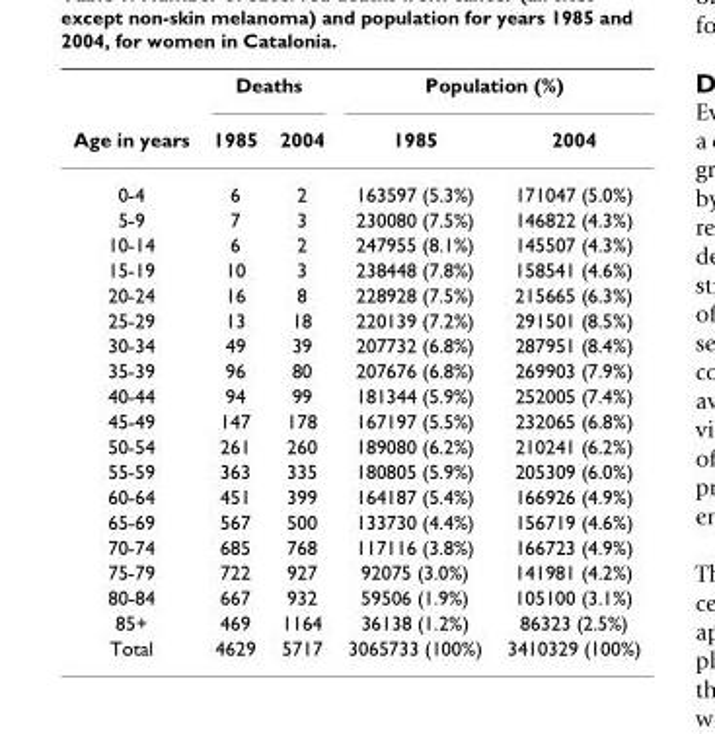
<table><thead><tr><td rowspan="2">Age in years</td><td colspan="2">Deaths</td><td colspan="2">Population (%)</td></tr><tr><td>1985</td><td>2004</td><td>1985</td><td>2004</td></tr></thead><tbody><tr><td>0-4</td><td>6</td><td>2</td><td>163597 (5.3%)</td><td>171047 (5.0%)</td></tr><tr><td>5-9</td><td>7</td><td>3</td><td>230080 (7.5%)</td><td>146822 (4.3%)</td></tr><tr><td>10-14</td><td>6</td><td>2</td><td>247955 (8.1%)</td><td>145507 (4.3%)</td></tr><tr><td>15-19</td><td>10</td><td>3</td><td>238448 (7.8%)</td><td>158541 (4.6%)</td></tr><tr><td>20-24</td><td>16</td><td>8</td><td>228928 (7.5%)</td><td>215665 (6.3%)</td></tr><tr><td>25-29</td><td>13</td><td>18</td><td>220139 (7.2%)</td><td>291501 (8.5%)</td></tr><tr><td>30-34</td><td>49</td><td>39</td><td>207732 (6.8%)</td><td>287951 (8.4%)</td></tr><tr><td>35-39</td><td>96</td><td>80</td><td>207676 (6.8%)</td><td>269903 (7.9%)</td></tr><tr><td>40-44</td><td>94</td><td>99</td><td>181344 (5.9%)</td><td>252005 (7.4%)</td></tr><tr><td>45-49</td><td>147</td><td>178</td><td>167197 (5.5%)</td><td>232065 (6.8%)</td></tr><tr><td>50-54</td><td>261</td><td>260</td><td>189080 (6.2%)</td><td>210241 (6.2%)</td></tr><tr><td>55-59</td><td>363</td><td>335</td><td>180805 (5.9%)</td><td>205309 (6.0%)</td></tr><tr><td>60-64</td><td>451</td><td>399</td><td>164187 (5.4%)</td><td>166926 (4.9%)</td></tr><tr><td>65-69</td><td>567</td><td>500</td><td>133730 (4.4%)</td><td>156719 (4.6%)</td></tr><tr><td>70-74</td><td>685</td><td>768</td><td>117116 (3.8%)</td><td>166723 (4.9%)</td></tr><tr><td>75-79</td><td>722</td><td>927</td><td>92075 (3.0%)</td><td>141981 (4.2%)</td></tr><tr><td>80-84</td><td>667</td><td>932</td><td>59506 (1.9%)</td><td>105100 (3.1%)</td></tr><tr><td>85+</td><td>469</td><td>1164</td><td>36138 (1.2%)</td><td>86323 (2.5%)</td></tr><tr><td>Total</td><td>4629</td><td>5717</td><td>3065733 (100%)</td><td>3410329 (100%)</td></tr></tbody></table>